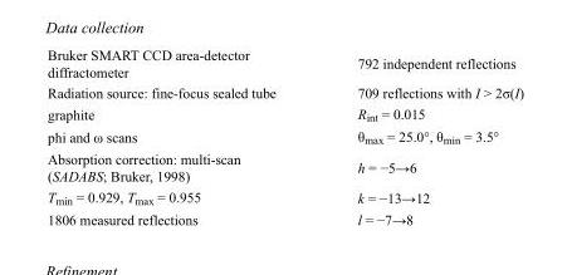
<table><tbody><tr><td>Bruker SMART CCD area-detector diffractometer</td><td>792 independent reflections</td></tr><tr><td>Radiation source: fine-focus sealed tube</td><td>709 reflections with I &gt; 2σ(I)</td></tr><tr><td>graphite</td><td>R<sub>int</sub> = 0.015</td></tr><tr><td>phi and ω scans</td><td>θ<sub>max</sub> = 25.0°, θ<sub>min</sub> = 3.5°</td></tr><tr><td>Absorption correction: multi-scan (SADABS; Bruker, 1998)</td><td>h = −5→6</td></tr><tr><td>T<sub>min</sub> = 0.929, T<sub>max</sub> = 0.955</td><td>k = −13→12</td></tr><tr><td>1806 measured reflections</td><td>l = −7→8</td></tr></tbody></table>